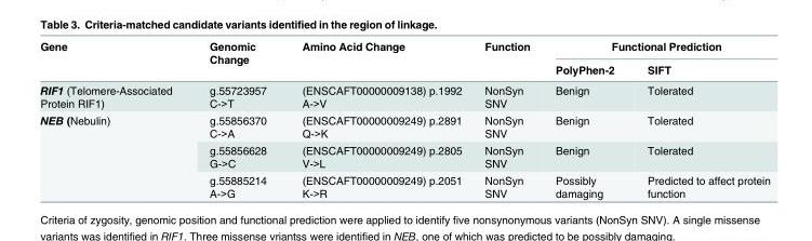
<table><thead><tr><td rowspan="2">Gene</td><td rowspan="2">Genomic Change</td><td rowspan="2">Amino Acid Change</td><td rowspan="2">Function</td><td colspan="2">Functional Prediction</td></tr><tr><td>PolyPhen-2</td><td>SIFT</td></tr></thead><tbody><tr><td>RIF1 (Telomere-Associated Protein RIF1)</td><td>g.55723957 C-&gt;T</td><td>(ENSCAFT00000009138) p.1992 A-&gt;V</td><td>NonSyn SNV</td><td>Benign</td><td>Tolerated</td></tr><tr><td rowspan="3">NEB (Nebulin)</td><td>g.55856370 C-&gt;A</td><td>(ENSCAFT00000009249) p.2891 Q-&gt;K</td><td>NonSyn SNV</td><td>Benign</td><td>Tolerated</td></tr><tr><td>g.55856628 G-&gt;C</td><td>(ENSCAFT00000009249) p.2805 V-&gt;L</td><td>NonSyn SNV</td><td>Benign</td><td>Tolerated</td></tr><tr><td>g.55885214 A-&gt;G</td><td>(ENSCAFT00000009249) p.2051 K-&gt;R</td><td>NonSyn SNV</td><td>Possibly damaging</td><td>Predicted to affect protein function</td></tr></tbody></table>